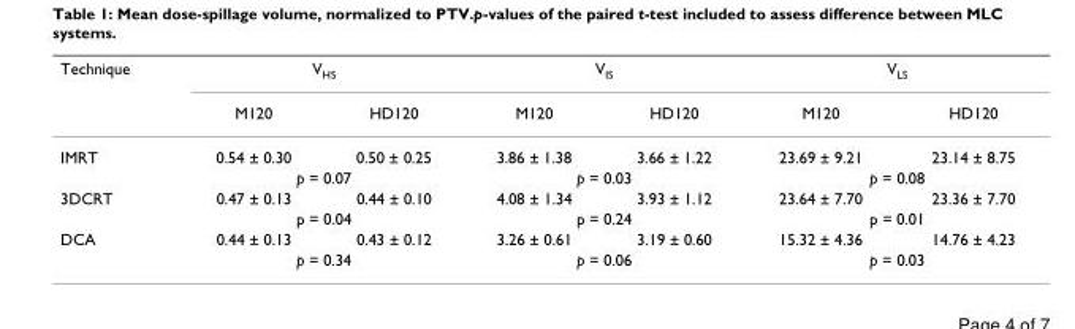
<table><thead><tr><td rowspan="2">Technique</td><td colspan="2">V<sub>HS</sub></td><td colspan="2">V<sub>IS</sub></td><td colspan="2">V<sub>LS</sub></td></tr><tr><td>M120</td><td>HD120</td><td>M120</td><td>HD120</td><td>M120</td><td>HD120</td></tr></thead><tbody><tr><td rowspan="2">IMRT</td><td>0.54 ± 0.30</td><td>0.50 ± 0.25</td><td>3.86 ± 1.38</td><td>3.66 ± 1.22</td><td>23.69 ± 9.21</td><td>23.14 ± 8.75</td></tr><tr><td colspan="2">p = 0.07</td><td colspan="2">p = 0.03</td><td colspan="2">p = 0.08</td></tr><tr><td rowspan="2">3DCRT</td><td>0.47 ± 0.13</td><td>0.44 ± 0.10</td><td>4.08 ± 1.34</td><td>3.93 ± 1.12</td><td>23.64 ± 7.70</td><td>23.36 ± 7.70</td></tr><tr><td colspan="2">p = 0.04</td><td colspan="2">p = 0.24</td><td colspan="2">p = 0.01</td></tr><tr><td rowspan="2">DCA</td><td>0.44 ± 0.13</td><td>0.43 ± 0.12</td><td>3.26 ± 0.61</td><td>3.19 ± 0.60</td><td>15.32 ± 4.36</td><td>14.76 ± 4.23</td></tr><tr><td colspan="2">p = 0.34</td><td colspan="2">p = 0.06</td><td colspan="2">p = 0.03</td></tr></tbody></table>